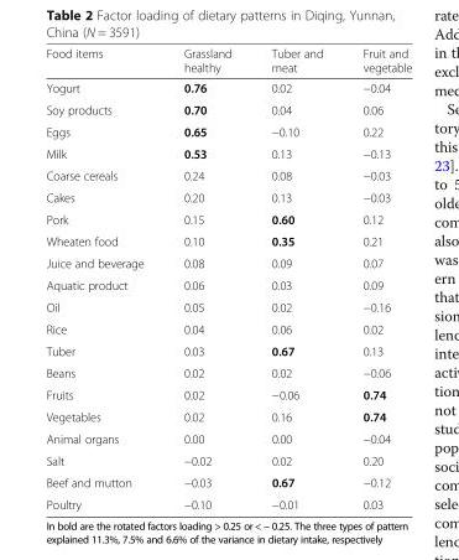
<table><thead><tr><td>Food items</td><td>Grassland healthy</td><td>Tuber and meat</td><td>Fruit and vegetable</td></tr></thead><tbody><tr><td>Yogurt</td><td>0.76</td><td>0.02</td><td>−0.04</td></tr><tr><td>Soy products</td><td>0.70</td><td>0.04</td><td>0.06</td></tr><tr><td>Eggs</td><td>0.65</td><td>−0.10</td><td>0.22</td></tr><tr><td>Milk</td><td>0.53</td><td>0.13</td><td>−0.13</td></tr><tr><td>Coarse cereals</td><td>0.24</td><td>0.08</td><td>−0.03</td></tr><tr><td>Cakes</td><td>0.20</td><td>0.13</td><td>−0.03</td></tr><tr><td>Pork</td><td>0.15</td><td>0.60</td><td>0.12</td></tr><tr><td>Wheaten food</td><td>0.10</td><td>0.35</td><td>0.21</td></tr><tr><td>Juice and beverage</td><td>0.08</td><td>0.09</td><td>0.07</td></tr><tr><td>Aquatic product</td><td>0.06</td><td>0.03</td><td>0.09</td></tr><tr><td>Oil</td><td>0.05</td><td>0.02</td><td>−0.16</td></tr><tr><td>Rice</td><td>0.04</td><td>0.06</td><td>0.02</td></tr><tr><td>Tuber</td><td>0.03</td><td>0.67</td><td>0.13</td></tr><tr><td>Beans</td><td>0.02</td><td>0.02</td><td>−0.06</td></tr><tr><td>Fruits</td><td>0.02</td><td>−0.06</td><td>0.74</td></tr><tr><td>Vegetables</td><td>0.02</td><td>0.16</td><td>0.74</td></tr><tr><td>Animal organs</td><td>0.00</td><td>0.00</td><td>−0.04</td></tr><tr><td>Salt</td><td>−0.02</td><td>0.02</td><td>0.20</td></tr><tr><td>Beef and mutton</td><td>−0.03</td><td>0.67</td><td>−0.12</td></tr><tr><td>Poultry</td><td>−0.10</td><td>−0.01</td><td>0.03</td></tr></tbody></table>